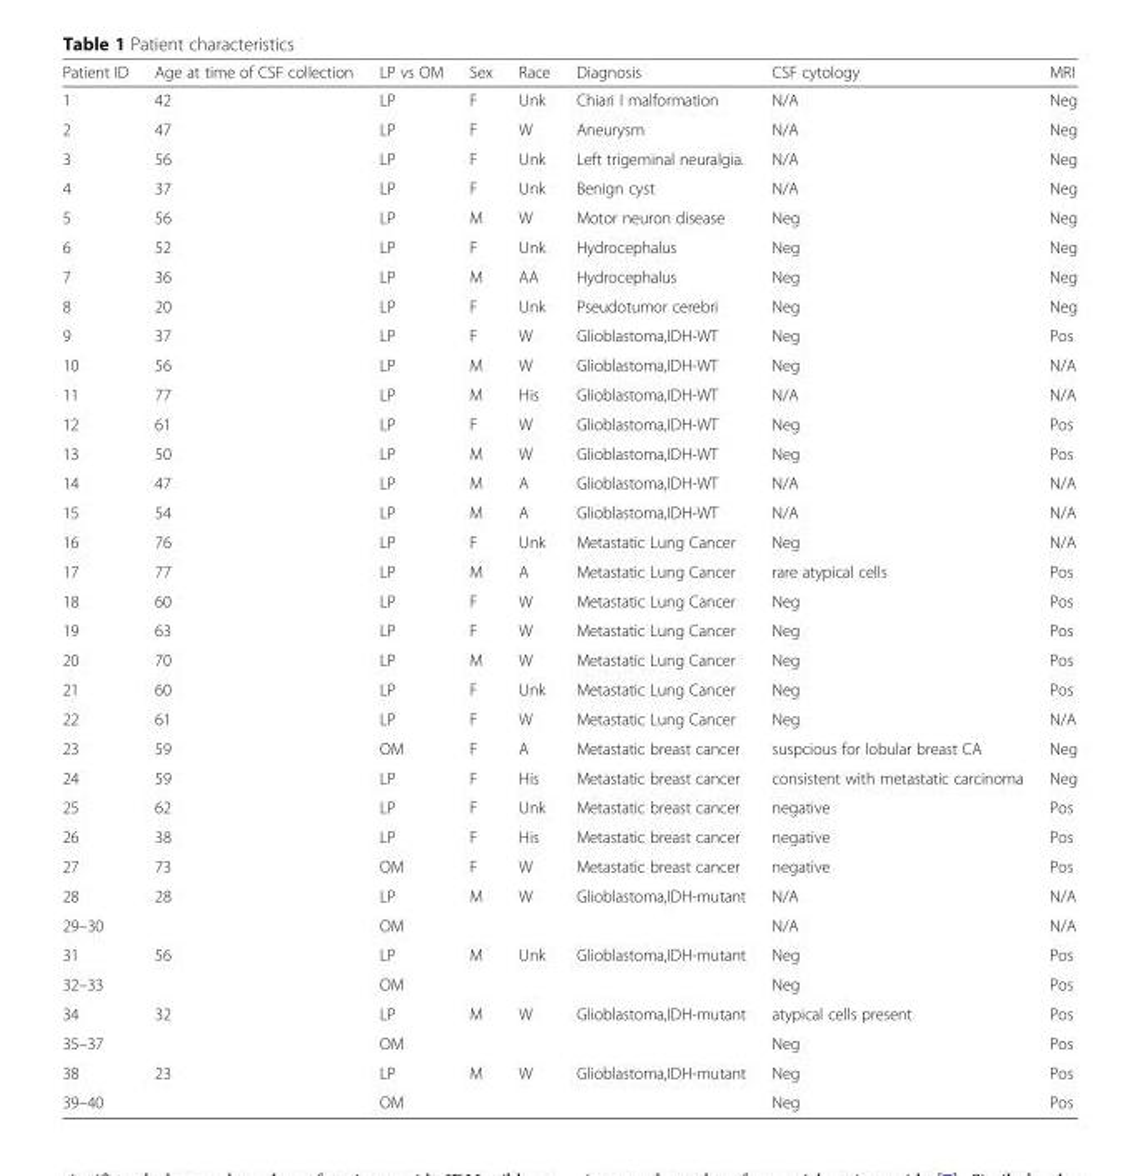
<table><thead><tr><td>Patient ID</td><td>Age at time of CSF collection</td><td>LP vs OM</td><td>Sex</td><td>Race</td><td>Diagnosis</td><td>CSF cytology</td><td>MRI</td></tr></thead><tbody><tr><td>1</td><td>42</td><td>LP</td><td>F</td><td>Unk</td><td>Chiari I malformation</td><td>N/A</td><td>Neg</td></tr><tr><td>2</td><td>47</td><td>LP</td><td>F</td><td>W</td><td>Aneurysm</td><td>N/A</td><td>Neg</td></tr><tr><td>3</td><td>56</td><td>LP</td><td>F</td><td>Unk</td><td>Left trigeminal neuralgia.</td><td>N/A</td><td>Neg</td></tr><tr><td>4</td><td>37</td><td>LP</td><td>F</td><td>Unk</td><td>Benign cyst</td><td>N/A</td><td>Neg</td></tr><tr><td>5</td><td>56</td><td>LP</td><td>M</td><td>W</td><td>Motor neuron disease</td><td>Neg</td><td>Neg</td></tr><tr><td>6</td><td>52</td><td>LP</td><td>F</td><td>Unk</td><td>Hydrocephalus</td><td>Neg</td><td>Neg</td></tr><tr><td>7</td><td>36</td><td>LP</td><td>M</td><td>AA</td><td>Hydrocephalus</td><td>Neg</td><td>Neg</td></tr><tr><td>8</td><td>20</td><td>LP</td><td>F</td><td>Unk</td><td>Pseudotumor cerebri</td><td>Neg</td><td>Neg</td></tr><tr><td>9</td><td>37</td><td>LP</td><td>F</td><td>W</td><td>Glioblastoma,IDH-WT</td><td>Neg</td><td>Pos</td></tr><tr><td>10</td><td>56</td><td>LP</td><td>M</td><td>W</td><td>Glioblastoma,IDH-WT</td><td>Neg</td><td>N/A</td></tr><tr><td>11</td><td>77</td><td>LP</td><td>M</td><td>His</td><td>Glioblastoma,IDH-WT</td><td>N/A</td><td>N/A</td></tr><tr><td>12</td><td>61</td><td>LP</td><td>F</td><td>W</td><td>Glioblastoma,IDH-WT</td><td>Neg</td><td>Pos</td></tr><tr><td>13</td><td>50</td><td>LP</td><td>M</td><td>W</td><td>Glioblastoma,IDH-WT</td><td>Neg</td><td>Pos</td></tr><tr><td>14</td><td>47</td><td>LP</td><td>M</td><td>A</td><td>Glioblastoma,IDH-WT</td><td>N/A</td><td>N/A</td></tr><tr><td>15</td><td>54</td><td>LP</td><td>M</td><td>A</td><td>Glioblastoma,IDH-WT</td><td>N/A</td><td>N/A</td></tr><tr><td>16</td><td>76</td><td>LP</td><td>F</td><td>Unk</td><td>Metastatic Lung Cancer</td><td>Neg</td><td>N/A</td></tr><tr><td>17</td><td>77</td><td>LP</td><td>M</td><td>A</td><td>Metastatic Lung Cancer</td><td>rare atypical cells</td><td>Pos</td></tr><tr><td>18</td><td>60</td><td>LP</td><td>F</td><td>W</td><td>Metastatic Lung Cancer</td><td>Neg</td><td>Pos</td></tr><tr><td>19</td><td>63</td><td>LP</td><td>F</td><td>W</td><td>Metastatic Lung Cancer</td><td>Neg</td><td>Pos</td></tr><tr><td>20</td><td>70</td><td>LP</td><td>M</td><td>W</td><td>Metastatic Lung Cancer</td><td>Neg</td><td>Pos</td></tr><tr><td>21</td><td>60</td><td>LP</td><td>F</td><td>Unk</td><td>Metastatic Lung Cancer</td><td>Neg</td><td>Pos</td></tr><tr><td>22</td><td>61</td><td>LP</td><td>F</td><td>W</td><td>Metastatic Lung Cancer</td><td>Neg</td><td>N/A</td></tr><tr><td>23</td><td>59</td><td>OM</td><td>F</td><td>A</td><td>Metastatic breast cancer</td><td>suspcious for lobular breast CA</td><td>Neg</td></tr><tr><td>24</td><td>59</td><td>LP</td><td>F</td><td>His</td><td>Metastatic breast cancer</td><td>consistent with metastatic carcinoma</td><td>Neg</td></tr><tr><td>25</td><td>62</td><td>LP</td><td>F</td><td>Unk</td><td>Metastatic breast cancer</td><td>negative</td><td>Pos</td></tr><tr><td>26</td><td>38</td><td>LP</td><td>F</td><td>His</td><td>Metastatic breast cancer</td><td>negative</td><td>Pos</td></tr><tr><td>27</td><td>73</td><td>OM</td><td>F</td><td>W</td><td>Metastatic breast cancer</td><td>negative</td><td>Pos</td></tr><tr><td>28</td><td>28</td><td>LP</td><td>M</td><td>W</td><td>Glioblastoma,IDH-mutant</td><td>N/A</td><td>N/A</td></tr><tr><td>29–30</td><td></td><td>OM</td><td></td><td></td><td></td><td>N/A</td><td>N/A</td></tr><tr><td>31</td><td>56</td><td>LP</td><td>M</td><td>Unk</td><td>Glioblastoma,IDH-mutant</td><td>Neg</td><td>Pos</td></tr><tr><td>32–33</td><td></td><td>OM</td><td></td><td></td><td></td><td>Neg</td><td>Pos</td></tr><tr><td>34</td><td>32</td><td>LP</td><td>M</td><td>W</td><td>Glioblastoma,IDH-mutant</td><td>atypical cells present</td><td>Pos</td></tr><tr><td>35–37</td><td></td><td>OM</td><td></td><td></td><td></td><td>Neg</td><td>Pos</td></tr><tr><td>38</td><td>23</td><td>LP</td><td>M</td><td>W</td><td>Glioblastoma,IDH-mutant</td><td>Neg</td><td>Pos</td></tr><tr><td>39–40</td><td></td><td>OM</td><td></td><td></td><td></td><td>Neg</td><td>Pos</td></tr></tbody></table>